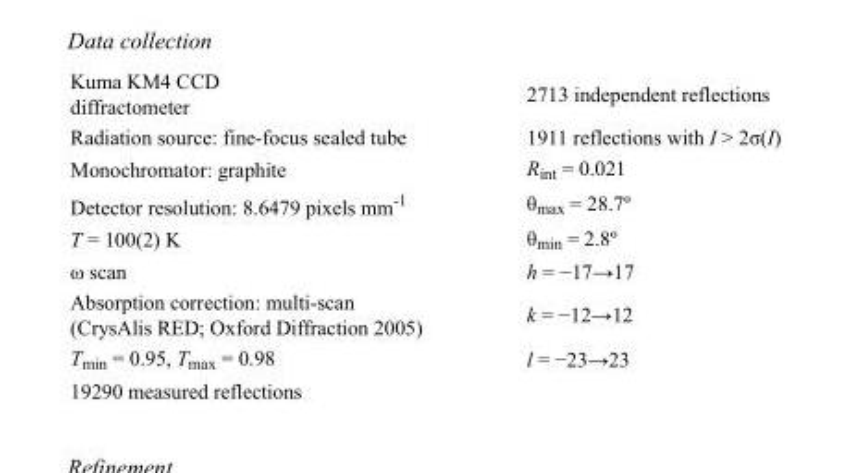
<table><tbody><tr><td>Kuma KM4 CCD diffractometer</td><td>2713 independent reflections</td></tr><tr><td>Radiation source: fine-focus sealed tube</td><td>1911 reflections with I &gt; 2σ(I)</td></tr><tr><td>Monochromator: graphite</td><td>R<sub>int</sub> = 0.021</td></tr><tr><td>Detector resolution: 8.6479 pixels mm<sup>-1</sup></td><td>θ<sub>max</sub> = 28.7º</td></tr><tr><td>T = 100(2) K</td><td>θ<sub>min</sub> = 2.8º</td></tr><tr><td>ω scan</td><td>h = −17→17</td></tr><tr><td>Absorption correction: multi-scan (CrysAlis RED; Oxford Diffraction 2005)</td><td>k = −12→12</td></tr><tr><td>T<sub>min</sub> = 0.95, T<sub>max</sub> = 0.98</td><td>l = −23→23</td></tr><tr><td>19290 measured reflections</td><td></td></tr></tbody></table>